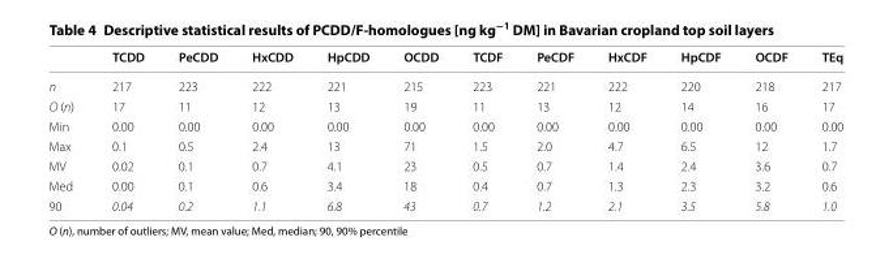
<table><thead><tr><td></td><td>TCDD</td><td>PeCDD</td><td>HxCDD</td><td>HpCDD</td><td>OCDD</td><td>TCDF</td><td>PeCDF</td><td>HxCDF</td><td>HpCDF</td><td>OCDF</td><td>TEq</td></tr></thead><tbody><tr><td>n</td><td>217</td><td>223</td><td>222</td><td>221</td><td>215</td><td>223</td><td>221</td><td>222</td><td>220</td><td>218</td><td>217</td></tr><tr><td>O (n)</td><td>17</td><td>11</td><td>12</td><td>13</td><td>19</td><td>11</td><td>13</td><td>12</td><td>14</td><td>16</td><td>17</td></tr><tr><td>Min</td><td>0.00</td><td>0.00</td><td>0.00</td><td>0.00</td><td>0.00</td><td>0.00</td><td>0.00</td><td>0.00</td><td>0.00</td><td>0.00</td><td>0.00</td></tr><tr><td>Max</td><td>0.1</td><td>0.5</td><td>2.4</td><td>13</td><td>71</td><td>1.5</td><td>2.0</td><td>4.7</td><td>6.5</td><td>12</td><td>1.7</td></tr><tr><td>MV</td><td>0.02</td><td>0.1</td><td>0.7</td><td>4.1</td><td>23</td><td>0.5</td><td>0.7</td><td>1.4</td><td>2.4</td><td>3.6</td><td>0.7</td></tr><tr><td>Med</td><td>0.00</td><td>0.1</td><td>0.6</td><td>3.4</td><td>18</td><td>0.4</td><td>0.7</td><td>1.3</td><td>2.3</td><td>3.2</td><td>0.6</td></tr><tr><td>90</td><td>0.04</td><td>0.2</td><td>1.1</td><td>6.8</td><td>43</td><td>0.7</td><td>1.2</td><td>2.1</td><td>3.5</td><td>5.8</td><td>1.0</td></tr></tbody></table>